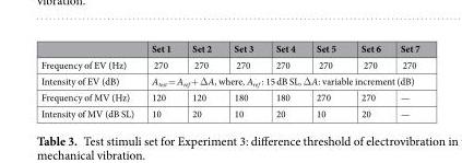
<table><thead><tr><td></td><td>Set 1</td><td>Set 2</td><td>Set 3</td><td>Set 4</td><td>Set 5</td><td>Set 6</td><td>Set 7</td></tr></thead><tbody><tr><td>Frequency of EV (Hz)</td><td>270</td><td>270</td><td>270</td><td>270</td><td>270</td><td>270</td><td>270</td></tr><tr><td>Intensity of EV (dB)</td><td colspan="7">A<sub>test</sub> = A<sub>ref</sub> + ΔA, where, A<sub>ref</sub> : 15 dB SL, ΔA: variable increment (dB)</td></tr><tr><td>Frequency of MV (Hz)</td><td>120</td><td>120</td><td>180</td><td>180</td><td>270</td><td>270</td><td>—</td></tr><tr><td>Intensity of MV (dB SL)</td><td>10</td><td>20</td><td>10</td><td>20</td><td>10</td><td>20</td><td>—</td></tr></tbody></table>